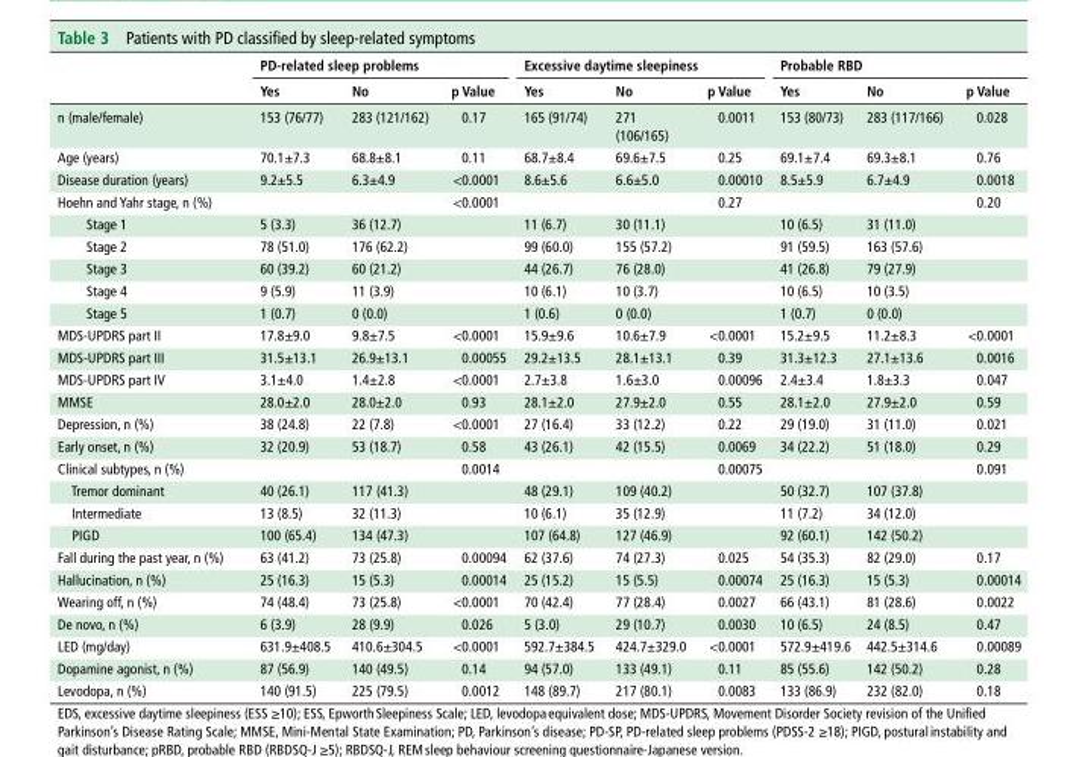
<table><thead><tr><td rowspan="2"></td><td colspan="3">Pd-related sleep problems</td><td colspan="3">excessive daytime sleepiness</td><td colspan="3">Probable rbd</td></tr><tr><td>Yes</td><td>no</td><td>p Value</td><td>Yes</td><td>no</td><td>p Value</td><td>Yes</td><td>no</td><td>p Value</td></tr></thead><tbody><tr><td>n (male/female)</td><td>153 (76/77)</td><td>283 (121/162)</td><td>0.17</td><td>165 (91/74)</td><td>271 (106/165)</td><td>0.0011</td><td>153 (80/73)</td><td>283 (117/166)</td><td>0.028</td></tr><tr><td>Age (years)</td><td>70.1±7.3</td><td>68.8±8.1</td><td>0.11</td><td>68.7±8.4</td><td>69.6±7.5</td><td>0.25</td><td>69.1±7.4</td><td>69.3±8.1</td><td>0.76</td></tr><tr><td>Disease duration (years)</td><td>9.2±5.5</td><td>6.3±4.9</td><td>&lt;0.0001</td><td>8.6±5.6</td><td>6.6±5.0</td><td>0.00010</td><td>8.5±5.9</td><td>6.7±4.9</td><td>0.0018</td></tr><tr><td>Hoehn and Yahr stage, n (%)</td><td></td><td></td><td>&lt;0.0001</td><td></td><td></td><td>0.27</td><td></td><td></td><td>0.20</td></tr><tr><td>Stage 1</td><td>5 (3.3)</td><td>36 (12.7)</td><td></td><td>11 (6.7)</td><td>30 (11.1)</td><td></td><td>10 (6.5)</td><td>31 (11.0)</td><td></td></tr><tr><td>Stage 2</td><td>78 (51.0)</td><td>176 (62.2)</td><td></td><td>99 (60.0)</td><td>155 (57.2)</td><td></td><td>91 (59.5)</td><td>163 (57.6)</td><td></td></tr><tr><td>Stage 3</td><td>60 (39.2)</td><td>60 (21.2)</td><td></td><td>44 (26.7)</td><td>76 (28.0)</td><td></td><td>41 (26.8)</td><td>79 (27.9)</td><td></td></tr><tr><td>Stage 4</td><td>9 (5.9)</td><td>11 (3.9)</td><td></td><td>10 (6.1)</td><td>10 (3.7)</td><td></td><td>10 (6.5)</td><td>10 (3.5)</td><td></td></tr><tr><td>Stage 5</td><td>1 (0.7)</td><td>0 (0.0)</td><td></td><td>1 (0.6)</td><td>0 (0.0)</td><td></td><td>1 (0.7)</td><td>0 (0.0)</td><td></td></tr><tr><td>MDS-UPDRS part II</td><td>17.8±9.0</td><td>9.8±7.5</td><td>&lt;0.0001</td><td>15.9±9.6</td><td>10.6±7.9</td><td>&lt;0.0001</td><td>15.2±9.5</td><td>11.2±8.3</td><td>&lt;0.0001</td></tr><tr><td>MDS-UPDRS part III</td><td>31.5±13.1</td><td>26.9±13.1</td><td>0.00055</td><td>29.2±13.5</td><td>28.1±13.1</td><td>0.39</td><td>31.3±12.3</td><td>27.1±13.6</td><td>0.0016</td></tr><tr><td>MDS-UPDRS part IV</td><td>3.1±4.0</td><td>1.4±2.8</td><td>&lt;0.0001</td><td>2.7±3.8</td><td>1.6±3.0</td><td>0.00096</td><td>2.4±3.4</td><td>1.8±3.3</td><td>0.047</td></tr><tr><td>MMSE</td><td>28.0±2.0</td><td>28.0±2.0</td><td>0.93</td><td>28.1±2.0</td><td>27.9±2.0</td><td>0.55</td><td>28.1±2.0</td><td>27.9±2.0</td><td>0.59</td></tr><tr><td>Depression, n (%)</td><td>38 (24.8)</td><td>22 (7.8)</td><td>&lt;0.0001</td><td>27 (16.4)</td><td>33 (12.2)</td><td>0.22</td><td>29 (19.0)</td><td>31 (11.0)</td><td>0.021</td></tr><tr><td>Early onset, n (%)</td><td>32 (20.9)</td><td>53 (18.7)</td><td>0.58</td><td>43 (26.1)</td><td>42 (15.5)</td><td>0.0069</td><td>34 (22.2)</td><td>51 (18.0)</td><td>0.29</td></tr><tr><td>Clinical subtypes, n (%)</td><td></td><td></td><td>0.0014</td><td></td><td></td><td>0.00075</td><td></td><td></td><td>0.091</td></tr><tr><td>Tremor dominant</td><td>40 (26.1)</td><td>117 (41.3)</td><td></td><td>48 (29.1)</td><td>109 (40.2)</td><td></td><td>50 (32.7)</td><td>107 (37.8)</td><td></td></tr><tr><td>Intermediate</td><td>13 (8.5)</td><td>32 (11.3)</td><td></td><td>10 (6.1)</td><td>35 (12.9)</td><td></td><td>11 (7.2)</td><td>34 (12.0)</td><td></td></tr><tr><td>PIGD</td><td>100 (65.4)</td><td>134 (47.3)</td><td></td><td>107 (64.8)</td><td>127 (46.9)</td><td></td><td>92 (60.1)</td><td>142 (50.2)</td><td></td></tr><tr><td>Fall during the past year, n (%)</td><td>63 (41.2)</td><td>73 (25.8)</td><td>0.00094</td><td>62 (37.6)</td><td>74 (27.3)</td><td>0.025</td><td>54 (35.3)</td><td>82 (29.0)</td><td>0.17</td></tr><tr><td>Hallucination, n (%)</td><td>25 (16.3)</td><td>15 (5.3)</td><td>0.00014</td><td>25 (15.2)</td><td>15 (5.5)</td><td>0.00074</td><td>25 (16.3)</td><td>15 (5.3)</td><td>0.00014</td></tr><tr><td>Wearing off, n (%)</td><td>74 (48.4)</td><td>73 (25.8)</td><td>&lt;0.0001</td><td>70 (42.4)</td><td>77 (28.4)</td><td>0.0027</td><td>66 (43.1)</td><td>81 (28.6)</td><td>0.0022</td></tr><tr><td>De novo, n (%)</td><td>6 (3.9)</td><td>28 (9.9)</td><td>0.026</td><td>5 (3.0)</td><td>29 (10.7)</td><td>0.0030</td><td>10 (6.5)</td><td>24 (8.5)</td><td>0.47</td></tr><tr><td>LED (mg/day)</td><td>631.9±408.5</td><td>410.6±304.5</td><td>&lt;0.0001</td><td>592.7±384.5</td><td>424.7±329.0</td><td>&lt;0.0001</td><td>572.9±419.6</td><td>442.5±314.6</td><td>0.00089</td></tr><tr><td>Dopamine agonist, n (%)</td><td>87 (56.9)</td><td>140 (49.5)</td><td>0.14</td><td>94 (57.0)</td><td>133 (49.1)</td><td>0.11</td><td>85 (55.6)</td><td>142 (50.2)</td><td>0.28</td></tr><tr><td>Levodopa, n (%)</td><td>140 (91.5)</td><td>225 (79.5)</td><td>0.0012</td><td>148 (89.7)</td><td>217 (80.1)</td><td>0.0083</td><td>133 (86.9)</td><td>232 (82.0)</td><td>0.18</td></tr></tbody></table>